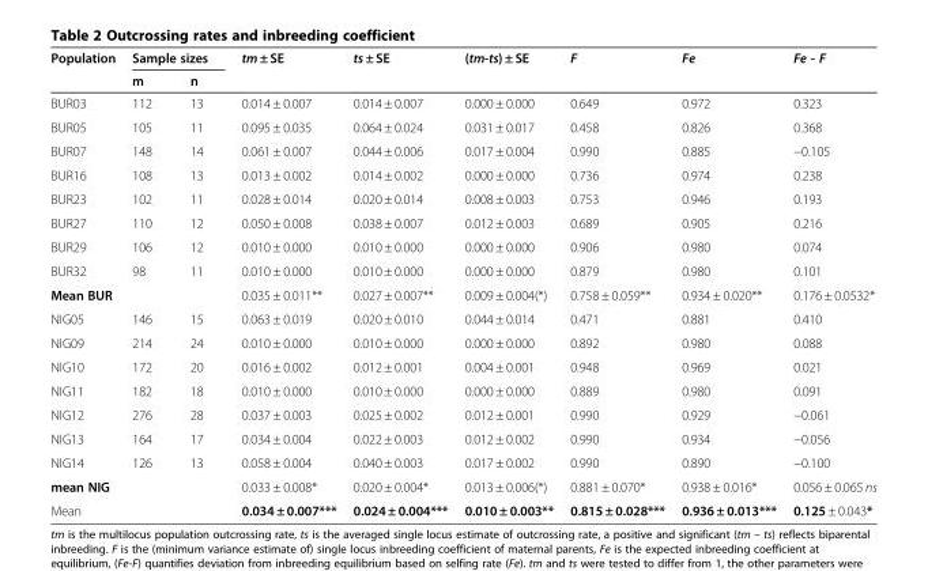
<table><thead><tr><td rowspan="2">Population</td><td colspan="2">Sample sizes</td><td rowspan="2">tm ± SE</td><td rowspan="2">ts ± SE</td><td rowspan="2">(tm-ts) ± SE</td><td rowspan="2">F</td><td rowspan="2">Fe</td><td rowspan="2">Fe - F</td></tr><tr><td>m</td><td>n</td></tr></thead><tbody><tr><td>BUR03</td><td>112</td><td>13</td><td>0.014 ± 0.007</td><td>0.014 ± 0.007</td><td>0.000 ± 0.000</td><td>0.649</td><td>0.972</td><td>0.323</td></tr><tr><td>BUR05</td><td>105</td><td>11</td><td>0.095 ± 0.035</td><td>0.064 ± 0.024</td><td>0.031 ± 0.017</td><td>0.458</td><td>0.826</td><td>0.368</td></tr><tr><td>BUR07</td><td>148</td><td>14</td><td>0.061 ± 0.007</td><td>0.044 ± 0.006</td><td>0.017 ± 0.004</td><td>0.990</td><td>0.885</td><td>−0.105</td></tr><tr><td>BUR16</td><td>108</td><td>13</td><td>0.013 ± 0.002</td><td>0.014 ± 0.002</td><td>0.000 ± 0.000</td><td>0.736</td><td>0.974</td><td>0.238</td></tr><tr><td>BUR23</td><td>102</td><td>11</td><td>0.028 ± 0.014</td><td>0.020 ± 0.014</td><td>0.008 ± 0.003</td><td>0.753</td><td>0.946</td><td>0.193</td></tr><tr><td>BUR27</td><td>110</td><td>12</td><td>0.050 ± 0.008</td><td>0.038 ± 0.007</td><td>0.012 ± 0.003</td><td>0.689</td><td>0.905</td><td>0.216</td></tr><tr><td>BUR29</td><td>106</td><td>12</td><td>0.010 ± 0.000</td><td>0.010 ± 0.000</td><td>0.000 ± 0.000</td><td>0.906</td><td>0.980</td><td>0.074</td></tr><tr><td>BUR32</td><td>98</td><td>11</td><td>0.010 ± 0.000</td><td>0.010 ± 0.000</td><td>0.000 ± 0.000</td><td>0.879</td><td>0.980</td><td>0.101</td></tr><tr><td>Mean BUR</td><td></td><td></td><td>0.035 ± 0.011**</td><td>0.027 ± 0.007**</td><td>0.009 ± 0.004(*)</td><td>0.758 ± 0.059**</td><td>0.934 ± 0.020**</td><td>0.176 ± 0.0532*</td></tr><tr><td>NIG05</td><td>146</td><td>15</td><td>0.063 ± 0.019</td><td>0.020 ± 0.010</td><td>0.044 ± 0.014</td><td>0.471</td><td>0.881</td><td>0.410</td></tr><tr><td>NIG09</td><td>214</td><td>24</td><td>0.010 ± 0.000</td><td>0.010 ± 0.000</td><td>0.000 ± 0.000</td><td>0.892</td><td>0.980</td><td>0.088</td></tr><tr><td>NIG10</td><td>172</td><td>20</td><td>0.016 ± 0.002</td><td>0.012 ± 0.001</td><td>0.004 ± 0.001</td><td>0.948</td><td>0.969</td><td>0.021</td></tr><tr><td>NIG11</td><td>182</td><td>18</td><td>0.010 ± 0.000</td><td>0.010 ± 0.000</td><td>0.000 ± 0.000</td><td>0.889</td><td>0.980</td><td>0.091</td></tr><tr><td>NIG12</td><td>276</td><td>28</td><td>0.037 ± 0.003</td><td>0.025 ± 0.002</td><td>0.012 ± 0.001</td><td>0.990</td><td>0.929</td><td>−0.061</td></tr><tr><td>NIG13</td><td>164</td><td>17</td><td>0.034 ± 0.004</td><td>0.022 ± 0.003</td><td>0.012 ± 0.002</td><td>0.990</td><td>0.934</td><td>−0.056</td></tr><tr><td>NIG14</td><td>126</td><td>13</td><td>0.058 ± 0.004</td><td>0.040 ± 0.003</td><td>0.017 ± 0.002</td><td>0.990</td><td>0.890</td><td>−0.100</td></tr><tr><td>mean NIG</td><td></td><td></td><td>0.033 ± 0.008*</td><td>0.020 ± 0.004*</td><td>0.013 ± 0.006(*)</td><td>0.881 ± 0.070*</td><td>0.938 ± 0.016*</td><td>0.056 ± 0.065 ns</td></tr><tr><td>Mean</td><td></td><td></td><td>0.034 ± 0.007***</td><td>0.024 ± 0.004***</td><td>0.010 ± 0.003**</td><td>0.815 ± 0.028***</td><td>0.936 ± 0.013***</td><td>0.125 ± 0.043*</td></tr></tbody></table>